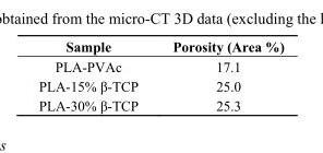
<table><thead><tr><td>Sample</td><td>Porosity (Area %)</td></tr></thead><tbody><tr><td>PLA-PVAc</td><td>17.1</td></tr><tr><td>PLA-15% β-TCP</td><td>25.0</td></tr><tr><td>PLA-30% β-TCP</td><td>25.3</td></tr></tbody></table>